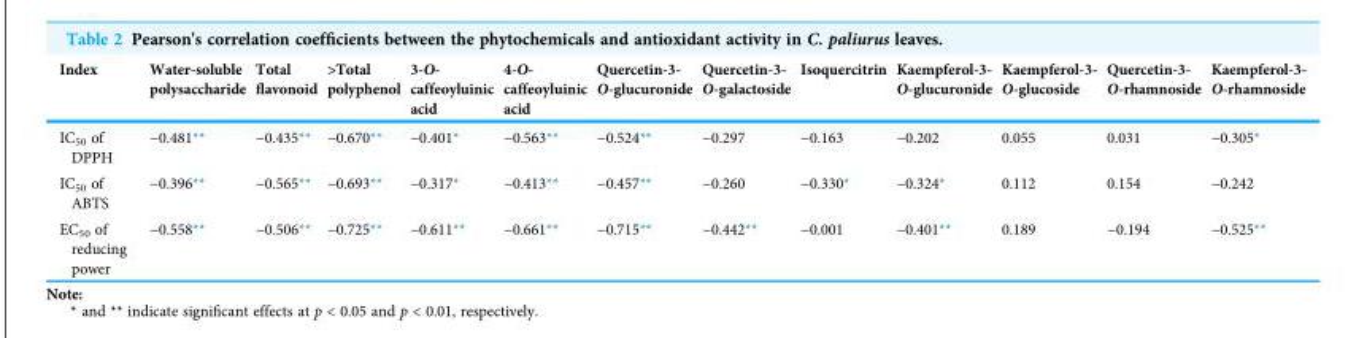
<table><thead><tr><td>Index</td><td>Water-soluble polysaccharide</td><td>Total flavonoid</td><td>&gt;Total polyphenol</td><td>3-O- caffeoyluinic acid</td><td>4-O- caffeoyluinic acid</td><td>Quercetin-3- O-glucuronide</td><td>Quercetin-3- O-galactoside</td><td>Isoquercitrin</td><td>Kaempferol-3- O-glucuronide</td><td>Kaempferol-3- O-glucoside</td><td>Quercetin-3- O-rhamnoside</td><td>Kaempferol-3- O-rhamnoside</td></tr></thead><tbody><tr><td>IC<sub>50</sub> of DPPH</td><td>−0.481**</td><td>−0.435**</td><td>−0.670**</td><td>−0.401*</td><td>−0.563**</td><td>−0.524**</td><td>−0.297</td><td>−0.163</td><td>−0.202</td><td>0.055</td><td>0.031</td><td>−0.305*</td></tr><tr><td>IC<sub>50</sub> of ABTS</td><td>−0.396**</td><td>−0.565**</td><td>−0.693**</td><td>−0.317*</td><td>−0.413**</td><td>−0.457**</td><td>−0.260</td><td>−0.330*</td><td>−0.324*</td><td>0.112</td><td>0.154</td><td>−0.242</td></tr><tr><td>EC<sub>50</sub> of reducing power</td><td>−0.558**</td><td>−0.506**</td><td>−0.725**</td><td>−0.611**</td><td>−0.661**</td><td>−0.715**</td><td>−0.442**</td><td>−0.001</td><td>−0.401**</td><td>0.189</td><td>−0.194</td><td>−0.525**</td></tr></tbody></table>